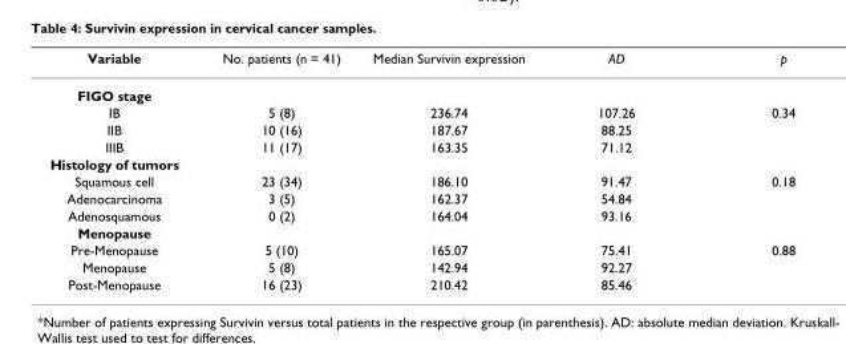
<table><thead><tr><td>Variable</td><td>No. patients (n = 41)</td><td>Median Survivin expression</td><td>AD</td><td>p</td></tr></thead><tbody><tr><td colspan="5">FIGO stage</td></tr><tr><td>IB</td><td>5 (8)</td><td>236.74</td><td>107.26</td><td>0.34</td></tr><tr><td>IIB</td><td>10 (16)</td><td>187.67</td><td>88.25</td><td></td></tr><tr><td>IIIB</td><td>11 (17)</td><td>163.35</td><td>71.12</td><td></td></tr><tr><td colspan="5">Histology of tumors</td></tr><tr><td>Squamous cell</td><td>23 (34)</td><td>186.10</td><td>91.47</td><td>0.18</td></tr><tr><td>Adenocarcinoma</td><td>3 (5)</td><td>162.37</td><td>54.84</td><td></td></tr><tr><td>Adenosquamous</td><td>0 (2)</td><td>164.04</td><td>93.16</td><td></td></tr><tr><td colspan="5">Menopause</td></tr><tr><td>Pre-Menopause</td><td>5 (10)</td><td>165.07</td><td>75.41</td><td>0.88</td></tr><tr><td>Menopause</td><td>5 (8)</td><td>142.94</td><td>92.27</td><td></td></tr><tr><td>Post-Menopause</td><td>16 (23)</td><td>210.42</td><td>85.46</td><td></td></tr></tbody></table>